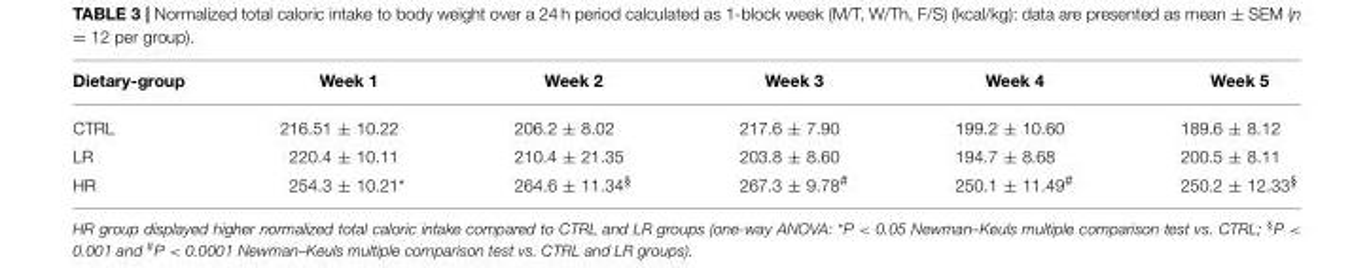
<table><thead><tr><td>Dietary-group</td><td>Week 1</td><td>Week 2</td><td>Week 3</td><td>Week 4</td><td>Week 5</td></tr></thead><tbody><tr><td>CTRL</td><td>216.51 ± 10.22</td><td>206.2 ± 8.02</td><td>217.6 ± 7.90</td><td>199.2 ± 10.60</td><td>189.6 ± 8.12</td></tr><tr><td>LR</td><td>220.4 ± 10.11</td><td>210.4 ± 21.35</td><td>203.8 ± 8.60</td><td>194.7 ± 8.68</td><td>200.5 ± 8.11</td></tr><tr><td>HR</td><td>254.3 ± 10.21*</td><td>264.6 ± 11.34<sup>§</sup></td><td>267.3 ± 9.78<sup>#</sup></td><td>250.1 ± 11.49<sup>#</sup></td><td>250.2 ± 12.33<sup>§</sup></td></tr></tbody></table>